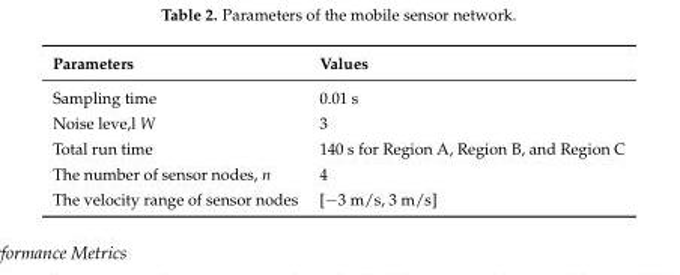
<table><thead><tr><td>Parameters</td><td>Values</td></tr></thead><tbody><tr><td>Sampling time</td><td>0.01 s</td></tr><tr><td>Noise leve,l W</td><td>3</td></tr><tr><td>Total run time</td><td>140 s for Region A, Region B, and Region C</td></tr><tr><td>The number of sensor nodes, n</td><td>4</td></tr><tr><td>The velocity range of sensor nodes</td><td>[−3 m/s, 3 m/s]</td></tr></tbody></table>